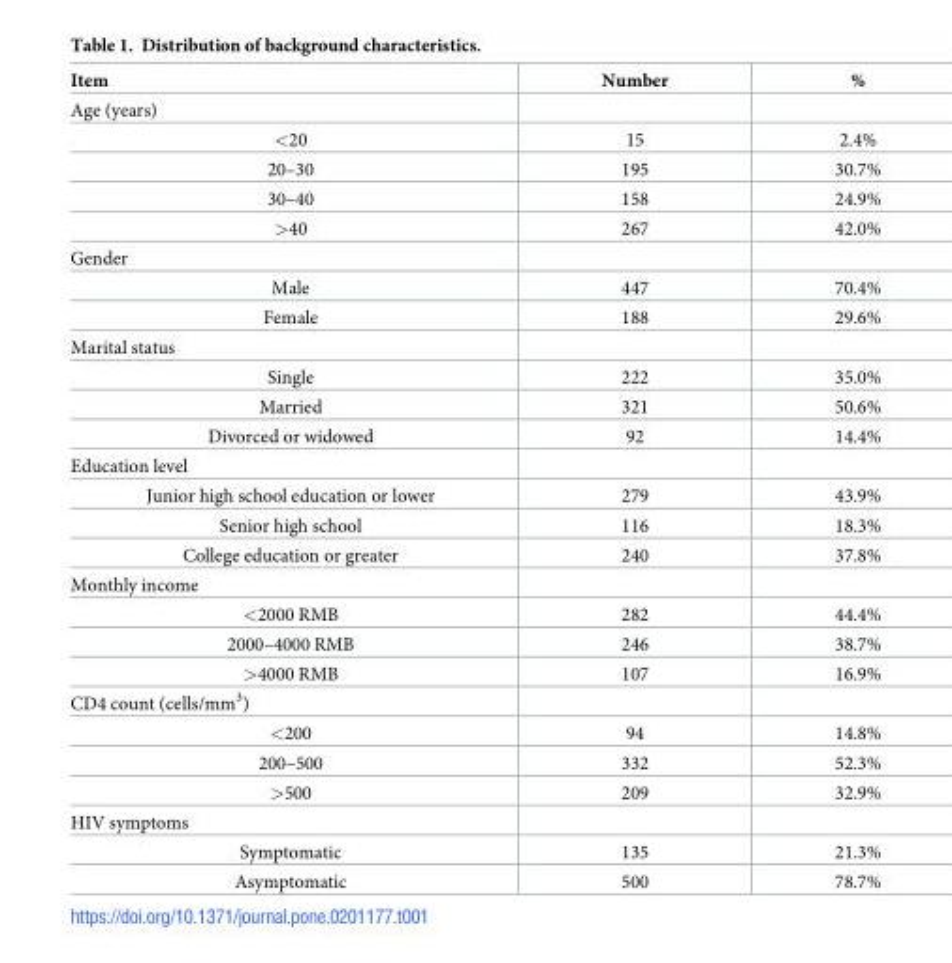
<table><thead><tr><td>Item</td><td>Number</td><td>%</td></tr></thead><tbody><tr><td colspan="3">Age (years)</td></tr><tr><td>&lt;20</td><td>15</td><td>2.4%</td></tr><tr><td>20–30</td><td>195</td><td>30.7%</td></tr><tr><td>30–40</td><td>158</td><td>24.9%</td></tr><tr><td>&gt;40</td><td>267</td><td>42.0%</td></tr><tr><td colspan="3">Gender</td></tr><tr><td>Male</td><td>447</td><td>70.4%</td></tr><tr><td>Female</td><td>188</td><td>29.6%</td></tr><tr><td colspan="3">Marital status</td></tr><tr><td>Single</td><td>222</td><td>35.0%</td></tr><tr><td>Married</td><td>321</td><td>50.6%</td></tr><tr><td>Divorced or widowed</td><td>92</td><td>14.4%</td></tr><tr><td colspan="3">Education level</td></tr><tr><td>Junior high school education or lower</td><td>279</td><td>43.9%</td></tr><tr><td>Senior high school</td><td>116</td><td>18.3%</td></tr><tr><td>College education or greater</td><td>240</td><td>37.8%</td></tr><tr><td colspan="3">Monthly income</td></tr><tr><td>&lt;2000 RMB</td><td>282</td><td>44.4%</td></tr><tr><td>2000–4000 RMB</td><td>246</td><td>38.7%</td></tr><tr><td>&gt;4000 RMB</td><td>107</td><td>16.9%</td></tr><tr><td colspan="3">CD4 count (cells/mm<sup>3</sup>)</td></tr><tr><td>&lt;200</td><td>94</td><td>14.8%</td></tr><tr><td>200–500</td><td>332</td><td>52.3%</td></tr><tr><td>&gt;500</td><td>209</td><td>32.9%</td></tr><tr><td colspan="3">HIV symptoms</td></tr><tr><td>Symptomatic</td><td>135</td><td>21.3%</td></tr><tr><td>Asymptomatic</td><td>500</td><td>78.7%</td></tr></tbody></table>